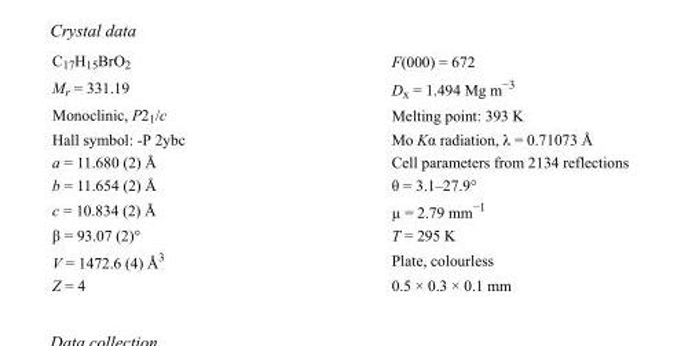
<table><tbody><tr><td>C<sub>17</sub>H<sub>15</sub>BrO<sub>2</sub></td><td>F(000) = 672</td></tr><tr><td>M<sub>r</sub> = 331.19</td><td>D<sub>x</sub> = 1.494 Mg m<sup>−3</sup></td></tr><tr><td>Monoclinic, P2<sub>1</sub>/c</td><td>Melting point: 393 K</td></tr><tr><td>Hall symbol: -P 2ybc</td><td>Mo Kα radiation, λ = 0.71073 Å</td></tr><tr><td>a = 11.680 (2) Å</td><td>Cell parameters from 2134 reflections</td></tr><tr><td>b = 11.654 (2) Å</td><td>θ = 3.1–27.9°</td></tr><tr><td>c = 10.834 (2) Å</td><td>µ = 2.79 mm<sup>−1</sup></td></tr><tr><td>β = 93.07 (2)°</td><td>T = 295 K</td></tr><tr><td>V = 1472.6 (4) Å<sup>3</sup></td><td>Plate, colourless</td></tr><tr><td>Z = 4</td><td>0.5 × 0.3 × 0.1 mm</td></tr></tbody></table>